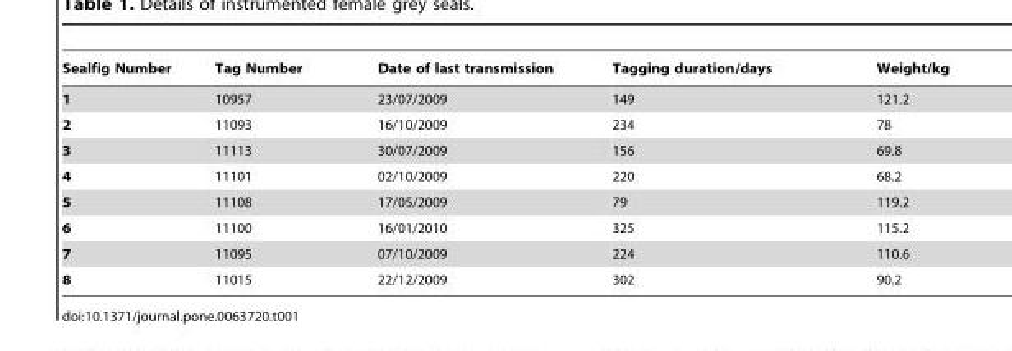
<table><thead><tr><td>Sealfig Number</td><td>Tag Number</td><td>Date of last transmission</td><td>Tagging duration/days</td><td>Weight/kg</td></tr></thead><tbody><tr><td>1</td><td>10957</td><td>23/07/2009</td><td>149</td><td>121.2</td></tr><tr><td>2</td><td>11093</td><td>16/10/2009</td><td>234</td><td>78</td></tr><tr><td>3</td><td>11113</td><td>30/07/2009</td><td>156</td><td>69.8</td></tr><tr><td>4</td><td>11101</td><td>02/10/2009</td><td>220</td><td>68.2</td></tr><tr><td>5</td><td>11108</td><td>17/05/2009</td><td>79</td><td>119.2</td></tr><tr><td>6</td><td>11100</td><td>16/01/2010</td><td>325</td><td>115.2</td></tr><tr><td>7</td><td>11095</td><td>07/10/2009</td><td>224</td><td>110.6</td></tr><tr><td>8</td><td>11015</td><td>22/12/2009</td><td>302</td><td>90.2</td></tr></tbody></table>